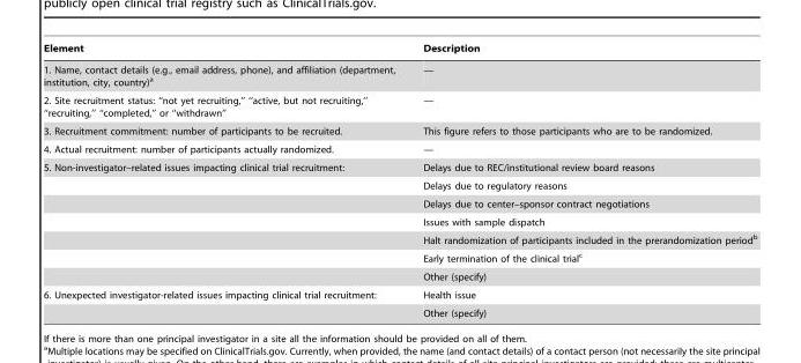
<table><thead><tr><td>Element</td><td>Description</td></tr></thead><tbody><tr><td>1. Name, contact details (e.g., email address, phone), and affiliation (department, institution, city, country)<sup>a</sup></td><td>—</td></tr><tr><td>2. Site recruitment status: ‘‘not yet recruiting,’’ ‘‘active, but not recruiting,’’ ‘‘recruiting,’’ ‘‘completed,’’ or ‘‘withdrawn’’</td><td>—</td></tr><tr><td>3. Recruitment commitment: number of participants to be recruited.</td><td>This figure refers to those participants who are to be randomized.</td></tr><tr><td>4. Actual recruitment: number of participants actually randomized.</td><td>—</td></tr><tr><td rowspan="7">5. Non-investigator–related issues impacting clinical trial recruitment:</td><td>Delays due to REC/institutional review board reasons</td></tr><tr><td>Delays due to regulatory reasons</td></tr><tr><td>Delays due to center–sponsor contract negotiations</td></tr><tr><td>Issues with sample dispatch</td></tr><tr><td>Halt randomization of participants included in the prerandomization period<sup>b</sup></td></tr><tr><td>Early termination of the clinical trial<sup>c</sup></td></tr><tr><td>Other (specify)</td></tr><tr><td rowspan="2">6. Unexpected investigator-related issues impacting clinical trial recruitment:</td><td>Health issue</td></tr><tr><td>Other (specify)</td></tr></tbody></table>